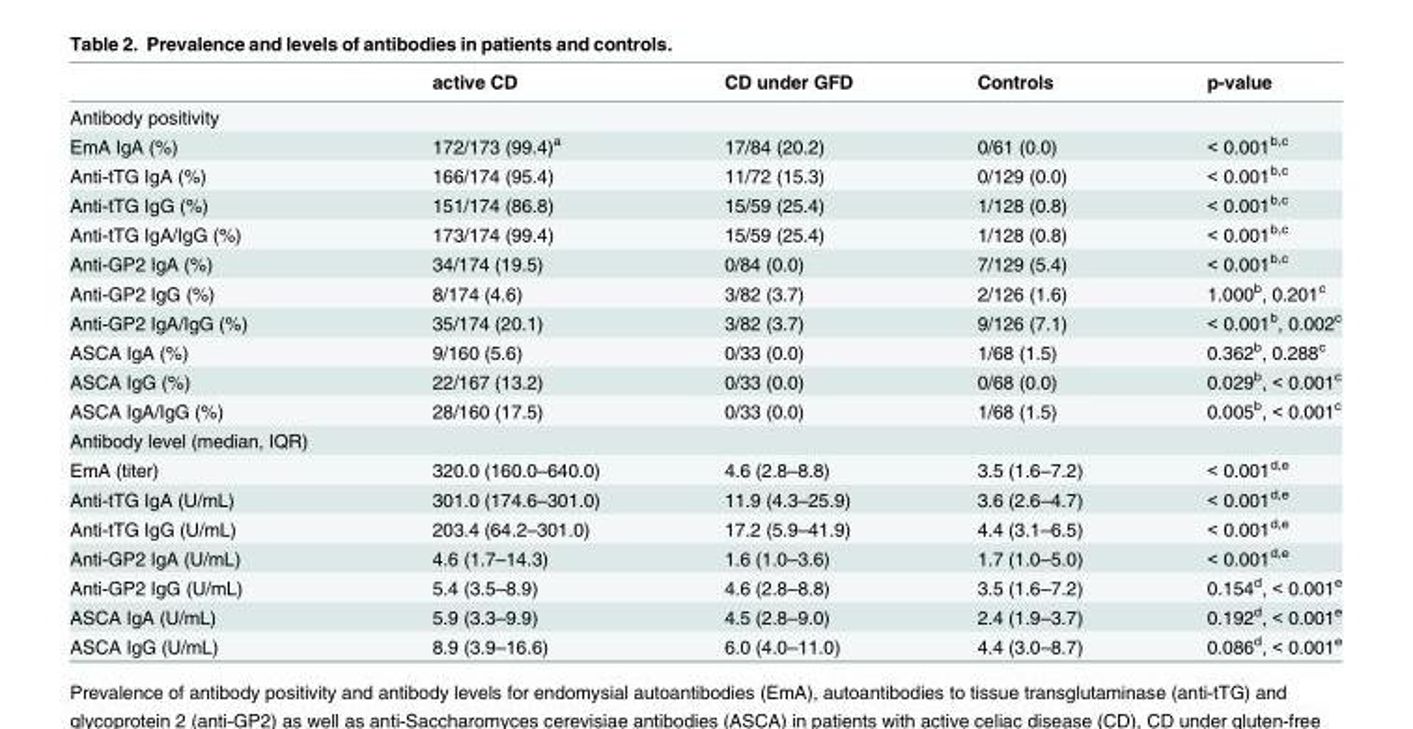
<table><thead><tr><td></td><td>active CD</td><td>CD under GFD</td><td>Controls</td><td>p-value</td></tr></thead><tbody><tr><td colspan="5">Antibody positivity</td></tr><tr><td>EmA IgA (%)</td><td>172/173 (99.4)<sup>a</sup></td><td>17/84 (20.2)</td><td>0/61 (0.0)</td><td>&lt; 0.001<sup>b,c</sup></td></tr><tr><td>Anti-tTG IgA (%)</td><td>166/174 (95.4)</td><td>11/72 (15.3)</td><td>0/129 (0.0)</td><td>&lt; 0.001<sup>b,c</sup></td></tr><tr><td>Anti-tTG IgG (%)</td><td>151/174 (86.8)</td><td>15/59 (25.4)</td><td>1/128 (0.8)</td><td>&lt; 0.001<sup>b,c</sup></td></tr><tr><td>Anti-tTG IgA/IgG (%)</td><td>173/174 (99.4)</td><td>15/59 (25.4)</td><td>1/128 (0.8)</td><td>&lt; 0.001<sup>b,c</sup></td></tr><tr><td>Anti-GP2 IgA (%)</td><td>34/174 (19.5)</td><td>0/84 (0.0)</td><td>7/129 (5.4)</td><td>&lt; 0.001<sup>b,c</sup></td></tr><tr><td>Anti-GP2 IgG (%)</td><td>8/174 (4.6)</td><td>3/82 (3.7)</td><td>2/126 (1.6)</td><td>1.000<sup>b</sup>, 0.201<sup>c</sup></td></tr><tr><td>Anti-GP2 IgA/IgG (%)</td><td>35/174 (20.1)</td><td>3/82 (3.7)</td><td>9/126 (7.1)</td><td>&lt; 0.001<sup>b</sup>, 0.002<sup>c</sup></td></tr><tr><td>ASCA IgA (%)</td><td>9/160 (5.6)</td><td>0/33 (0.0)</td><td>1/68 (1.5)</td><td>0.362<sup>b</sup>, 0.288<sup>c</sup></td></tr><tr><td>ASCA IgG (%)</td><td>22/167 (13.2)</td><td>0/33 (0.0)</td><td>0/68 (0.0)</td><td>0.029<sup>b</sup>, &lt; 0.001<sup>c</sup></td></tr><tr><td>ASCA IgA/IgG (%)</td><td>28/160 (17.5)</td><td>0/33 (0.0)</td><td>1/68 (1.5)</td><td>0.005<sup>b</sup>, &lt; 0.001<sup>c</sup></td></tr><tr><td colspan="5">Antibody level (median, IQR)</td></tr><tr><td>EmA (titer)</td><td>320.0 (160.0–640.0)</td><td>4.6 (2.8–8.8)</td><td>3.5 (1.6–7.2)</td><td>&lt; 0.001<sup>d,e</sup></td></tr><tr><td>Anti-tTG IgA (U/mL)</td><td>301.0 (174.6–301.0)</td><td>11.9 (4.3–25.9)</td><td>3.6 (2.6–4.7)</td><td>&lt; 0.001<sup>d,e</sup></td></tr><tr><td>Anti-tTG IgG (U/mL)</td><td>203.4 (64.2–301.0)</td><td>17.2 (5.9–41.9)</td><td>4.4 (3.1–6.5)</td><td>&lt; 0.001<sup>d,e</sup></td></tr><tr><td>Anti-GP2 IgA (U/mL)</td><td>4.6 (1.7–14.3)</td><td>1.6 (1.0–3.6)</td><td>1.7 (1.0–5.0)</td><td>&lt; 0.001<sup>d,e</sup></td></tr><tr><td>Anti-GP2 IgG (U/mL)</td><td>5.4 (3.5–8.9)</td><td>4.6 (2.8–8.8)</td><td>3.5 (1.6–7.2)</td><td>0.154<sup>d</sup>, &lt; 0.001<sup>e</sup></td></tr><tr><td>ASCA IgA (U/mL)</td><td>5.9 (3.3–9.9)</td><td>4.5 (2.8–9.0)</td><td>2.4 (1.9–3.7)</td><td>0.192<sup>d</sup>, &lt; 0.001<sup>e</sup></td></tr><tr><td>ASCA IgG (U/mL)</td><td>8.9 (3.9–16.6)</td><td>6.0 (4.0–11.0)</td><td>4.4 (3.0–8.7)</td><td>0.086<sup>d</sup>, &lt; 0.001<sup>e</sup></td></tr></tbody></table>